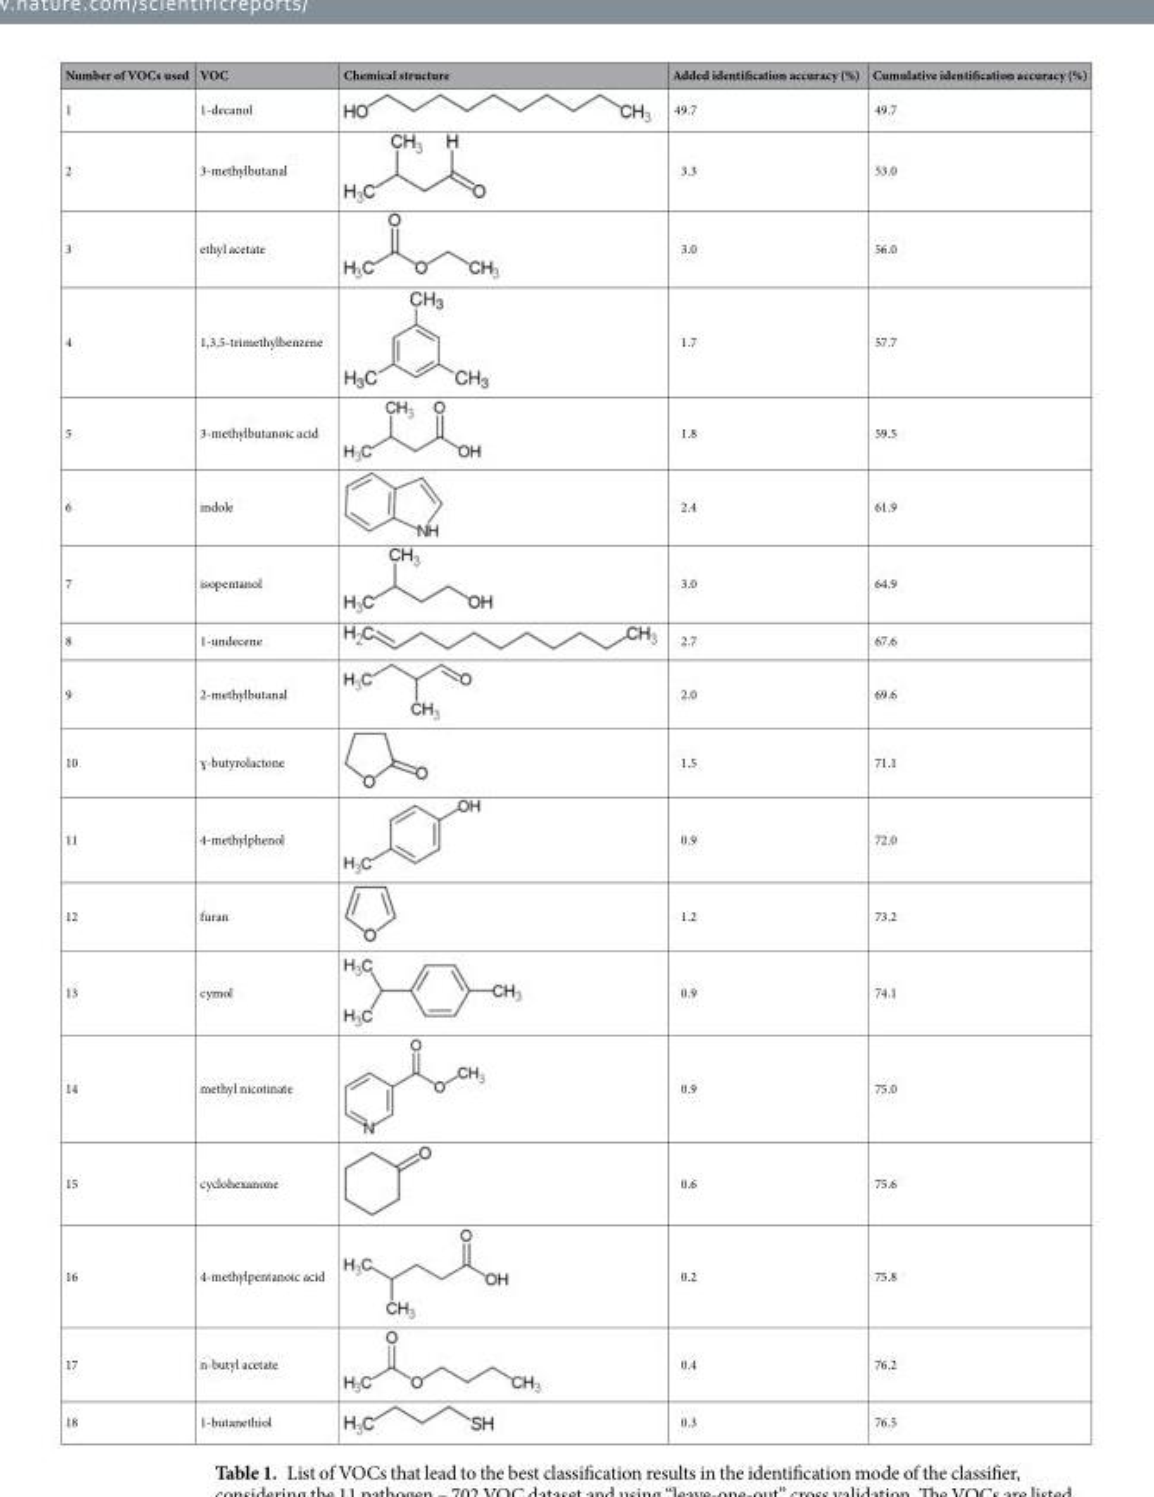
<table><thead><tr><td>Number of VOCs used</td><td>VOC</td><td>Chemical structure</td><td>Added identification accuracy (%)</td><td>Cumulative identification accuracy (%)</td></tr></thead><tbody><tr><td>1</td><td>1-decanol</td><td></td><td>49.7</td><td>49.7</td></tr><tr><td>2</td><td>3-methylbutanal</td><td></td><td>3.3</td><td>53.0</td></tr><tr><td>3</td><td>ethyl acetate</td><td></td><td>3.0</td><td>56.0</td></tr><tr><td>4</td><td>1,3,5-trimethylbenzene</td><td></td><td>1.7</td><td>57.7</td></tr><tr><td>5</td><td>3-methylbutanoic acid</td><td></td><td>1.8</td><td>59.5</td></tr><tr><td>6</td><td>indole</td><td></td><td>2.4</td><td>61.9</td></tr><tr><td>7</td><td>isopentanol</td><td></td><td>3.0</td><td>64.9</td></tr><tr><td>8</td><td>1-undecene</td><td></td><td>2.7</td><td>67.6</td></tr><tr><td>9</td><td>2-methylbutanal</td><td></td><td>2.0</td><td>69.6</td></tr><tr><td>10</td><td>ɣ-butyrolactone</td><td></td><td>1.5</td><td>71.1</td></tr><tr><td>11</td><td>4-methylphenol</td><td></td><td>0.9</td><td>72.0</td></tr><tr><td>12</td><td>furan</td><td></td><td>1.2</td><td>73.2</td></tr><tr><td>13</td><td>cymol</td><td></td><td>0.9</td><td>74.1</td></tr><tr><td>14</td><td>methyl nicotinate</td><td></td><td>0.9</td><td>75.0</td></tr><tr><td>15</td><td>cyclohexanone</td><td></td><td>0.6</td><td>75.6</td></tr><tr><td>16</td><td>4-methylpentanoic acid</td><td></td><td>0.2</td><td>75.8</td></tr><tr><td>17</td><td>n-butyl acetate</td><td></td><td>0.4</td><td>76.2</td></tr><tr><td>18</td><td>1-butanethiol</td><td></td><td>0.3</td><td>76.5</td></tr></tbody></table>